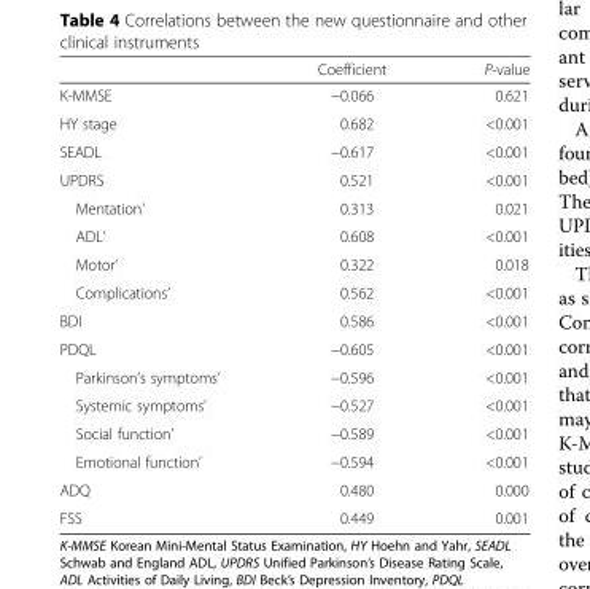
<table><thead><tr><td></td><td>Coefficient</td><td>P-value</td></tr></thead><tbody><tr><td>K-MMSE</td><td>−0.066</td><td>0.621</td></tr><tr><td>HY stage</td><td>0.682</td><td>&lt;0.001</td></tr><tr><td>SEADL</td><td>−0.617</td><td>&lt;0.001</td></tr><tr><td>UPDRS</td><td>0.521</td><td>&lt;0.001</td></tr><tr><td>Mentation’</td><td>0.313</td><td>0.021</td></tr><tr><td>ADL’</td><td>0.608</td><td>&lt;0.001</td></tr><tr><td>Motor’</td><td>0.322</td><td>0.018</td></tr><tr><td>Complications’</td><td>0.562</td><td>&lt;0.001</td></tr><tr><td>BDI</td><td>0.586</td><td>&lt;0.001</td></tr><tr><td>PDQL</td><td>−0.605</td><td>&lt;0.001</td></tr><tr><td>Parkinson’s symptoms’</td><td>−0.596</td><td>&lt;0.001</td></tr><tr><td>Systemic symptoms’</td><td>−0.527</td><td>&lt;0.001</td></tr><tr><td>Social function’</td><td>−0.589</td><td>&lt;0.001</td></tr><tr><td>Emotional function’</td><td>−0.594</td><td>&lt;0.001</td></tr><tr><td>ADQ</td><td>0.480</td><td>0.000</td></tr><tr><td>FSS</td><td>0.449</td><td>0.001</td></tr></tbody></table>